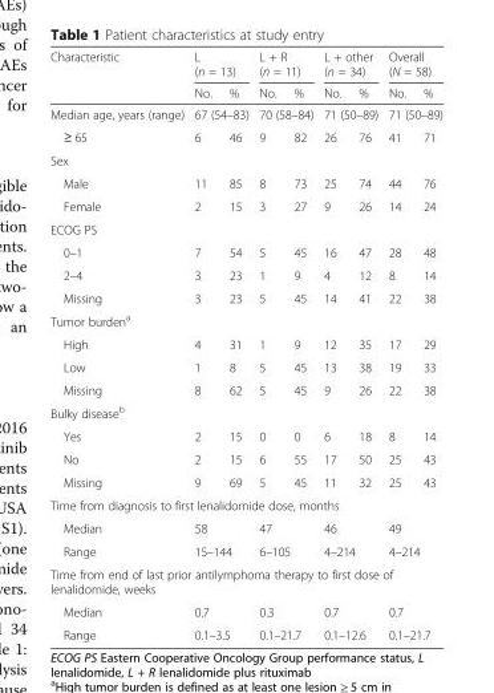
<table><thead><tr><td rowspan="2">Characteristic</td><td colspan="2">L (n = 13)</td><td colspan="2">L + R (n = 11)</td><td colspan="2">L + other (n = 34)</td><td colspan="2">Overall (N = 58)</td></tr><tr><td>No.</td><td>%</td><td>No.</td><td>%</td><td>No.</td><td>%</td><td>No.</td><td>%</td></tr></thead><tbody><tr><td>Median age, years (range)</td><td colspan="2">67 (54–83)</td><td colspan="2">70 (58–84)</td><td colspan="2">71 (50–89)</td><td colspan="2">71 (50–89)</td></tr><tr><td>≥ 65</td><td>6</td><td>46</td><td>9</td><td>82</td><td>26</td><td>76</td><td>41</td><td>71</td></tr><tr><td colspan="9">Sex</td></tr><tr><td>Male</td><td>11</td><td>85</td><td>8</td><td>73</td><td>25</td><td>74</td><td>44</td><td>76</td></tr><tr><td>Female</td><td>2</td><td>15</td><td>3</td><td>27</td><td>9</td><td>26</td><td>14</td><td>24</td></tr><tr><td colspan="9">ECOG PS</td></tr><tr><td>0–1</td><td>7</td><td>54</td><td>5</td><td>45</td><td>16</td><td>47</td><td>28</td><td>48</td></tr><tr><td>2–4</td><td>3</td><td>23</td><td>1</td><td>9</td><td>4</td><td>12</td><td>8</td><td>14</td></tr><tr><td>Missing</td><td>3</td><td>23</td><td>5</td><td>45</td><td>14</td><td>41</td><td>22</td><td>38</td></tr><tr><td colspan="9">Tumor burden<sup>a</sup></td></tr><tr><td>High</td><td>4</td><td>31</td><td>1</td><td>9</td><td>12</td><td>35</td><td>17</td><td>29</td></tr><tr><td>Low</td><td>1</td><td>8</td><td>5</td><td>45</td><td>13</td><td>38</td><td>19</td><td>33</td></tr><tr><td>Missing</td><td>8</td><td>62</td><td>5</td><td>45</td><td>9</td><td>26</td><td>22</td><td>38</td></tr><tr><td colspan="9">Bulky disease<sup>b</sup></td></tr><tr><td>Yes</td><td>2</td><td>15</td><td>0</td><td>0</td><td>6</td><td>18</td><td>8</td><td>14</td></tr><tr><td>No</td><td>2</td><td>15</td><td>6</td><td>55</td><td>17</td><td>50</td><td>25</td><td>43</td></tr><tr><td>Missing</td><td>9</td><td>69</td><td>5</td><td>45</td><td>11</td><td>32</td><td>25</td><td>43</td></tr><tr><td colspan="9">Time from diagnosis to first lenalidomide dose, months</td></tr><tr><td>Median</td><td colspan="2">58</td><td colspan="2">47</td><td colspan="2">46</td><td colspan="2">49</td></tr><tr><td>Range</td><td colspan="2">15–144</td><td colspan="2">6–105</td><td colspan="2">4–214</td><td colspan="2">4–214</td></tr><tr><td colspan="9">Time from end of last prior antilymphoma therapy to first dose of lenalidomide, weeks</td></tr><tr><td>Median</td><td colspan="2">0.7</td><td colspan="2">0.3</td><td colspan="2">0.7</td><td colspan="2">0.7</td></tr><tr><td>Range</td><td colspan="2">0.1–3.5</td><td colspan="2">0.1–21.7</td><td colspan="2">0.1–12.6</td><td colspan="2">0.1–21.7</td></tr></tbody></table>